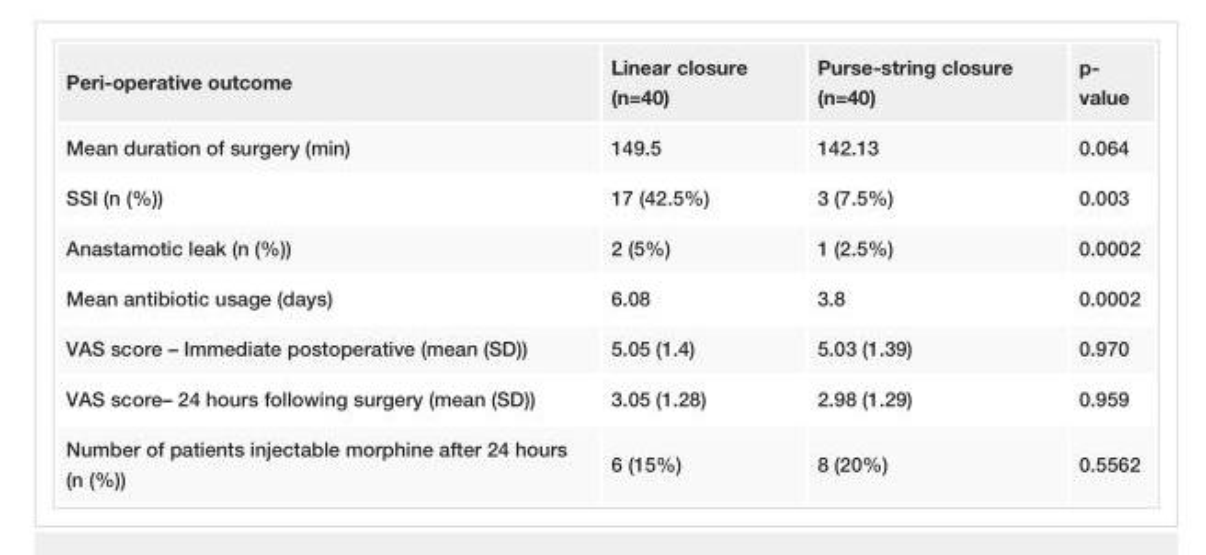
<table><tbody><tr><td>Peri-operative outcome</td><td>Linear closure (n=40)</td><td>Purse-string closure (n=40)</td><td>p- value</td></tr><tr><td>Mean duration of surgery (min)</td><td>149.5</td><td>142.13</td><td>0.064</td></tr><tr><td>SSI (n (%))</td><td>17 (42.5%)</td><td>3 (7.5%)</td><td>0.003</td></tr><tr><td>Anastamotic leak (n (%))</td><td>2 (5%)</td><td>1 (2.5%)</td><td>0.0002</td></tr><tr><td>Mean antibiotic usage (days)</td><td>6.08</td><td>3.8</td><td>0.0002</td></tr><tr><td>VAS score – Immediate postoperative (mean (SD))</td><td>5.05 (1.4)</td><td>5.03 (1.39)</td><td>0.970</td></tr><tr><td>VAS score– 24 hours following surgery (mean (SD))</td><td>3.05 (1.28)</td><td>2.98 (1.29)</td><td>0.959</td></tr><tr><td>Number of patients injectable morphine after 24 hours (n (%))</td><td>6 (15%)</td><td>8 (20%)</td><td>0.5562</td></tr></tbody></table>